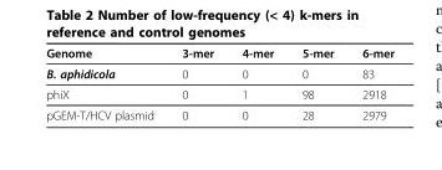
<table><thead><tr><td>Genome</td><td>3-mer</td><td>4-mer</td><td>5-mer</td><td>6-mer</td></tr></thead><tbody><tr><td>B. aphidicola</td><td>0</td><td>0</td><td>0</td><td>83</td></tr><tr><td>phiX</td><td>0</td><td>1</td><td>98</td><td>2918</td></tr><tr><td>pGEM-T/HCV plasmid</td><td>0</td><td>0</td><td>28</td><td>2979</td></tr></tbody></table>